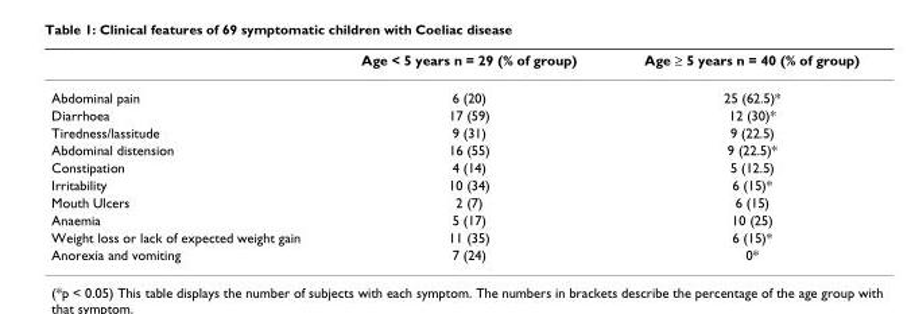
<table><thead><tr><td></td><td>Age &lt; 5 years n = 29 (% of group)</td><td>Age ≥ 5 years n = 40 (% of group)</td></tr></thead><tbody><tr><td>Abdominal pain</td><td>6 (20)</td><td>25 (62.5)*</td></tr><tr><td>Diarrhoea</td><td>17 (59)</td><td>12 (30)*</td></tr><tr><td>Tiredness/lassitude</td><td>9 (31)</td><td>9 (22.5)</td></tr><tr><td>Abdominal distension</td><td>16 (55)</td><td>9 (22.5)*</td></tr><tr><td>Constipation</td><td>4 (14)</td><td>5 (12.5)</td></tr><tr><td>Irritability</td><td>10 (34)</td><td>6 (15)*</td></tr><tr><td>Mouth Ulcers</td><td>2 (7)</td><td>6 (15)</td></tr><tr><td>Anaemia</td><td>5 (17)</td><td>10 (25)</td></tr><tr><td>Weight loss or lack of expected weight gain</td><td>11 (35)</td><td>6 (15)*</td></tr><tr><td>Anorexia and vomiting</td><td>7 (24)</td><td>0*</td></tr></tbody></table>